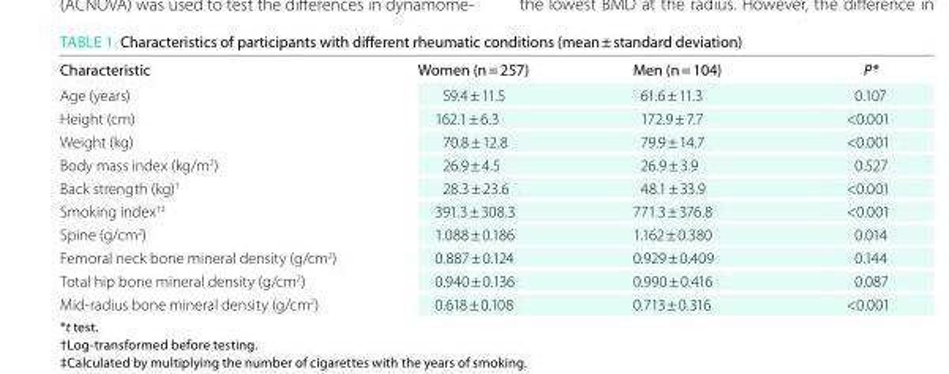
<table><thead><tr><td>Characteristic</td><td>Women (n = 257)</td><td>Men (n = 104)</td><td>P*</td></tr></thead><tbody><tr><td>Age (years)</td><td>59.4 ± 11.5</td><td>61.6 ± 11.3</td><td>0.107</td></tr><tr><td>Height (cm)</td><td>162.1 ± 6.3</td><td>172.9 ± 7.7</td><td>&lt;0.001</td></tr><tr><td>Weight (kg)</td><td>70.8 ± 12.8</td><td>79.9 ± 14.7</td><td>&lt;0.001</td></tr><tr><td>Body mass index (kg/m<sup>2</sup>)</td><td>26.9 ± 4.5</td><td>26.9 ± 3.9</td><td>0.527</td></tr><tr><td>Back strength (kg)<sup>†</sup></td><td>28.3 ± 23.6</td><td>48.1 ± 33.9</td><td>&lt;0.001</td></tr><tr><td>Smoking index<sup>†‡</sup></td><td>391.3 ± 308.3</td><td>771.3 ± 376.8</td><td>&lt;0.001</td></tr><tr><td>Spine (g/cm<sup>2</sup>)</td><td>1.088 ± 0.186</td><td>1.162 ± 0.380</td><td>0.014</td></tr><tr><td>Femoral neck bone mineral density (g/cm<sup>2</sup>)</td><td>0.887 ± 0.124</td><td>0.929 ± 0.409</td><td>0.144</td></tr><tr><td>Total hip bone mineral density (g/cm<sup>2</sup>)</td><td>0.940 ± 0.136</td><td>0.990 ± 0.416</td><td>0.087</td></tr><tr><td>Mid-radius bone mineral density (g/cm<sup>2</sup>)</td><td>0.618 ± 0.108</td><td>0.713 ± 0.316</td><td>&lt;0.001</td></tr></tbody></table>